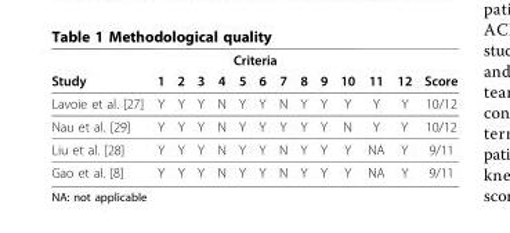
<table><thead><tr><td colspan="14">Criteria</td></tr><tr><td>Study</td><td>1</td><td>2</td><td>3</td><td>4</td><td>5</td><td>6</td><td>7</td><td>8</td><td>9</td><td>10</td><td>11</td><td>12</td><td>Score</td></tr></thead><tbody><tr><td>Lavoie et al. [27]</td><td>Y</td><td>Y</td><td>Y</td><td>N</td><td>Y</td><td>Y</td><td>N</td><td>Y</td><td>Y</td><td>Y</td><td>Y</td><td>Y</td><td>10/12</td></tr><tr><td>Nau et al. [29]</td><td>Y</td><td>Y</td><td>Y</td><td>N</td><td>Y</td><td>Y</td><td>Y</td><td>Y</td><td>Y</td><td>N</td><td>Y</td><td>Y</td><td>10/12</td></tr><tr><td>Liu et al. [28]</td><td>Y</td><td>Y</td><td>Y</td><td>N</td><td>Y</td><td>Y</td><td>N</td><td>Y</td><td>Y</td><td>Y</td><td>NA</td><td>Y</td><td>9/11</td></tr><tr><td>Gao et al. [8]</td><td>Y</td><td>Y</td><td>Y</td><td>N</td><td>Y</td><td>Y</td><td>N</td><td>Y</td><td>Y</td><td>Y</td><td>NA</td><td>Y</td><td>9/11</td></tr></tbody></table>